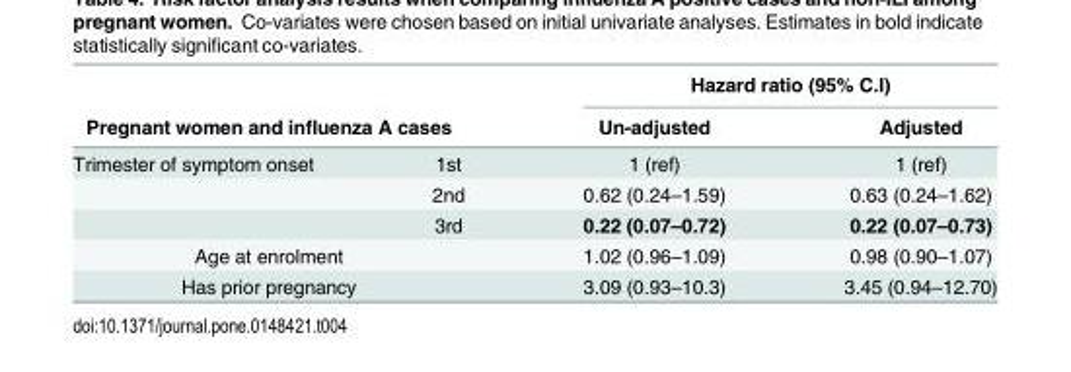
<table><thead><tr><td></td><td></td><td colspan="2">Hazard ratio (95% C.I)</td></tr><tr><td colspan="2">Pregnant women and influenza A cases</td><td>Un-adjusted</td><td>Adjusted</td></tr></thead><tbody><tr><td rowspan="3">Trimester of symptom onset</td><td>1st</td><td>1 (ref)</td><td>1 (ref)</td></tr><tr><td>2nd</td><td>0.62 (0.24–1.59)</td><td>0.63 (0.24–1.62)</td></tr><tr><td>3rd</td><td>0.22 (0.07–0.72)</td><td>0.22 (0.07–0.73)</td></tr><tr><td colspan="2">Age at enrolment</td><td>1.02 (0.96–1.09)</td><td>0.98 (0.90–1.07)</td></tr><tr><td colspan="2">Has prior pregnancy</td><td>3.09 (0.93–10.3)</td><td>3.45 (0.94–12.70)</td></tr></tbody></table>